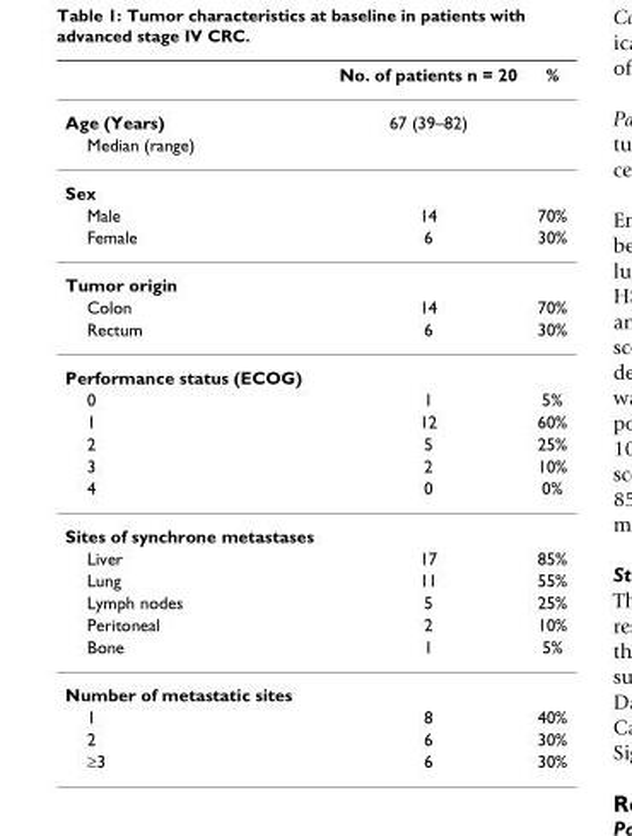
<table><thead><tr><td></td><td>No. of patients n = 20</td><td>%</td></tr></thead><tbody><tr><td>Age (Years)</td><td>67 (39–82)</td><td></td></tr><tr><td colspan="3">Median (range)</td></tr><tr><td colspan="3">Sex</td></tr><tr><td>Male</td><td>14</td><td>70%</td></tr><tr><td>Female</td><td>6</td><td>30%</td></tr><tr><td colspan="3">Tumor origin</td></tr><tr><td>Colon</td><td>14</td><td>70%</td></tr><tr><td>Rectum</td><td>6</td><td>30%</td></tr><tr><td colspan="3">Performance status (ECOG)</td></tr><tr><td>0</td><td>1</td><td>5%</td></tr><tr><td>1</td><td>12</td><td>60%</td></tr><tr><td>2</td><td>5</td><td>25%</td></tr><tr><td>3</td><td>2</td><td>10%</td></tr><tr><td>4</td><td>0</td><td>0%</td></tr><tr><td colspan="3">Sites of synchrone metastases</td></tr><tr><td>Liver</td><td>17</td><td>85%</td></tr><tr><td>Lung</td><td>11</td><td>55%</td></tr><tr><td>Lymph nodes</td><td>5</td><td>25%</td></tr><tr><td>Peritoneal</td><td>2</td><td>10%</td></tr><tr><td>Bone</td><td>1</td><td>5%</td></tr><tr><td colspan="3">Number of metastatic sites</td></tr><tr><td>1</td><td>8</td><td>40%</td></tr><tr><td>2</td><td>6</td><td>30%</td></tr><tr><td>≥3</td><td>6</td><td>30%</td></tr></tbody></table>